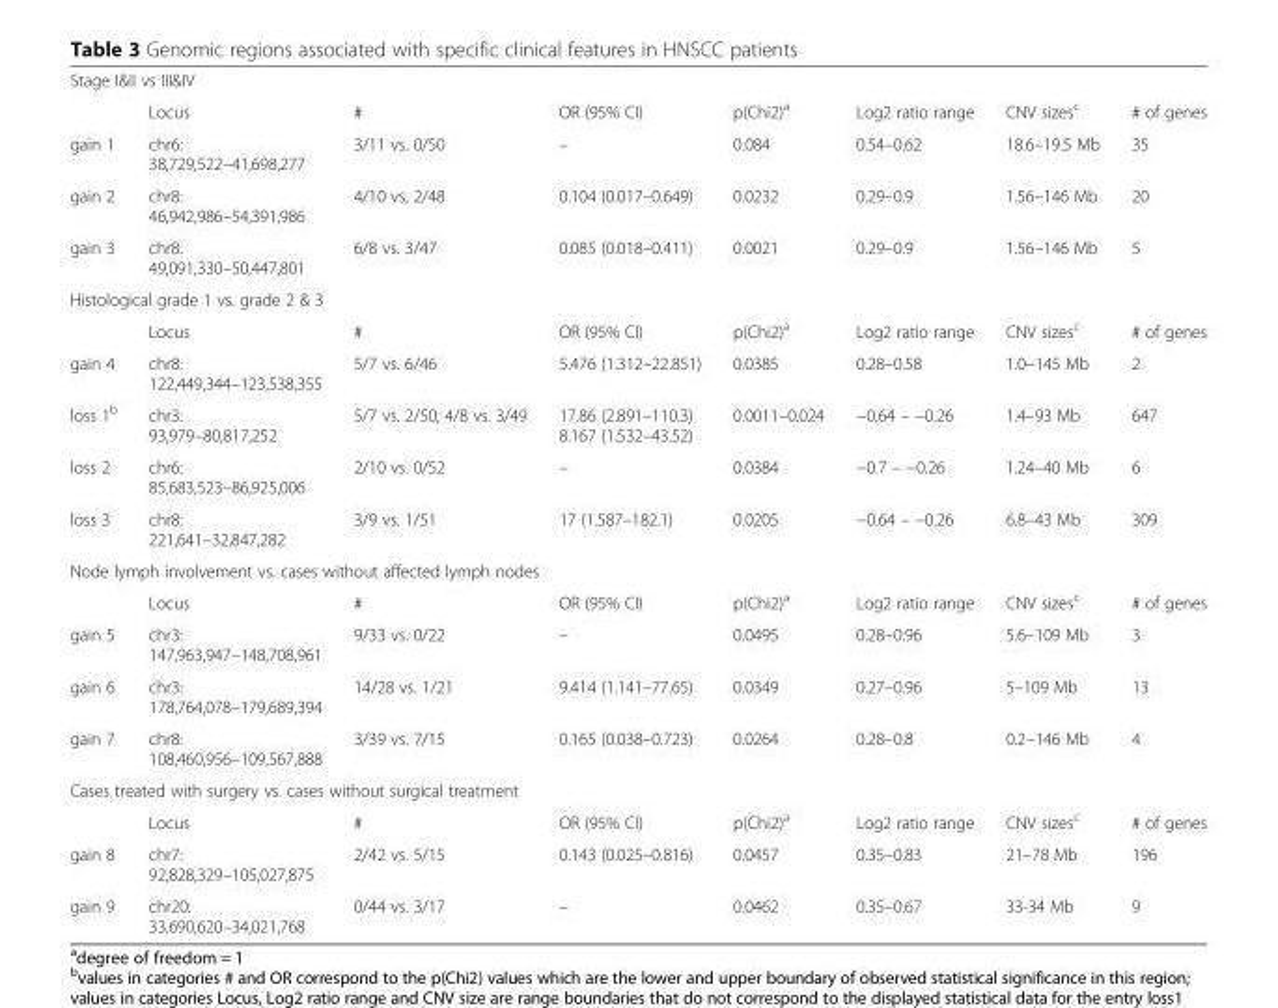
<table><tbody><tr><td colspan="8">Stage I&amp;II vs III&amp;IV</td></tr><tr><td></td><td>Locus</td><td>#</td><td>OR (95% CI)</td><td>p(Chi2)<sup>a</sup></td><td>Log2 ratio range</td><td>CNV sizes<sup>c</sup></td><td># of genes</td></tr><tr><td>gain 1</td><td>chr6: 38,729,522–41,698,277</td><td>3/11 vs. 0/50</td><td>–</td><td>0.084</td><td>0.54–0.62</td><td>18.6–19.5 Mb</td><td>35</td></tr><tr><td>gain 2</td><td>chr8: 46,942,986–54,391,986</td><td>4/10 vs, 2/48</td><td>0.104 (0.017–0.649)</td><td>0.0232</td><td>0.29–0.9</td><td>1.56–146 Mb</td><td>20</td></tr><tr><td>gain 3</td><td>chr8: 49,091,330–50,447,801</td><td>6/8 vs. 3/47</td><td>0.085 (0.018–0.411)</td><td>0.0021</td><td>0.29–0.9</td><td>1.56–146 Mb</td><td>5</td></tr><tr><td colspan="8">Histological grade 1 vs. grade 2 &amp; 3</td></tr><tr><td></td><td>Locus</td><td>#</td><td>OR (95% CI)</td><td>p(Chi2)<sup>a</sup></td><td>Log2 ratio range</td><td>CNV sizes<sup>c</sup></td><td># of genes</td></tr><tr><td>gain 4</td><td>chr8: 122,449,344–123,538,355</td><td>5/7 vs. 6/46</td><td>5.476 (1.312–22.851)</td><td>0.0385</td><td>0.28–0.58</td><td>1.0–145 Mb</td><td>2</td></tr><tr><td>loss 1<sup>b</sup></td><td>chr3: 93,979–80,817,252</td><td>5/7 vs. 2/50; 4/8 vs. 3/49</td><td>17.86 (2.891–110.3) 8.167 (1.532–43.52)</td><td>0.0011–0.024</td><td>−0.64 – −0.26</td><td>1.4–93 Mb</td><td>647</td></tr><tr><td>loss 2</td><td>chr6: 85,683,523–86,925,006</td><td>2/10 vs. 0/52</td><td>–</td><td>0.0384</td><td>−0.7 – −0.26</td><td>1.24–40 Mb</td><td>6</td></tr><tr><td>loss 3</td><td>chr8: 221,641–32,847,282</td><td>3/9 vs. 1/51</td><td>17 (1.587–182.1)</td><td>0.0205</td><td>−0.64 – −0.26</td><td>6.8–43 Mb</td><td>309</td></tr><tr><td colspan="8">Node lymph involvement vs. cases without affected lymph nodes</td></tr><tr><td></td><td>Locus</td><td>#</td><td>OR (95% CI)</td><td>p(Chi2)<sup>a</sup></td><td>Log2 ratio range</td><td>CNV sizes<sup>c</sup></td><td># of genes</td></tr><tr><td>gain 5</td><td>chr3: 147,963,947–148,708,961</td><td>9/33 vs. 0/22</td><td>–</td><td>0.0495</td><td>0.28–0.96</td><td>5.6–109 Mb</td><td>3</td></tr><tr><td>gain 6</td><td>chr3: 178,764,078–179,689,394</td><td>14/28 vs. 1/21</td><td>9.414 (1.141–77.65)</td><td>0.0349</td><td>0.27–0.96</td><td>5–109 Mb</td><td>13</td></tr><tr><td>gain 7</td><td>chr8: 108,460,956–109,567,888</td><td>3/39 vs. 7/15</td><td>0.165 (0.038–0.723)</td><td>0.0264</td><td>0.28–0.8</td><td>0.2–146 Mb</td><td>4</td></tr><tr><td colspan="8">Cases treated with surgery vs. cases without surgical treatment</td></tr><tr><td></td><td>Locus</td><td>#</td><td>OR (95% CI)</td><td>p(Chi2)<sup>a</sup></td><td>Log2 ratio range</td><td>CNV sizes<sup>c</sup></td><td># of genes</td></tr><tr><td>gain 8</td><td>chr7: 92,828,329–105,027,875</td><td>2/42 vs. 5/15</td><td>0.143 (0.025–0.816)</td><td>0.0457</td><td>0.35–0.83</td><td>21–78 Mb</td><td>196</td></tr><tr><td>gain 9</td><td>chr20: 33,690,620–34,021,768</td><td>0/44 vs. 3/17</td><td>–</td><td>0.0462</td><td>0.35–0.67</td><td>33-34 Mb</td><td>9</td></tr></tbody></table>